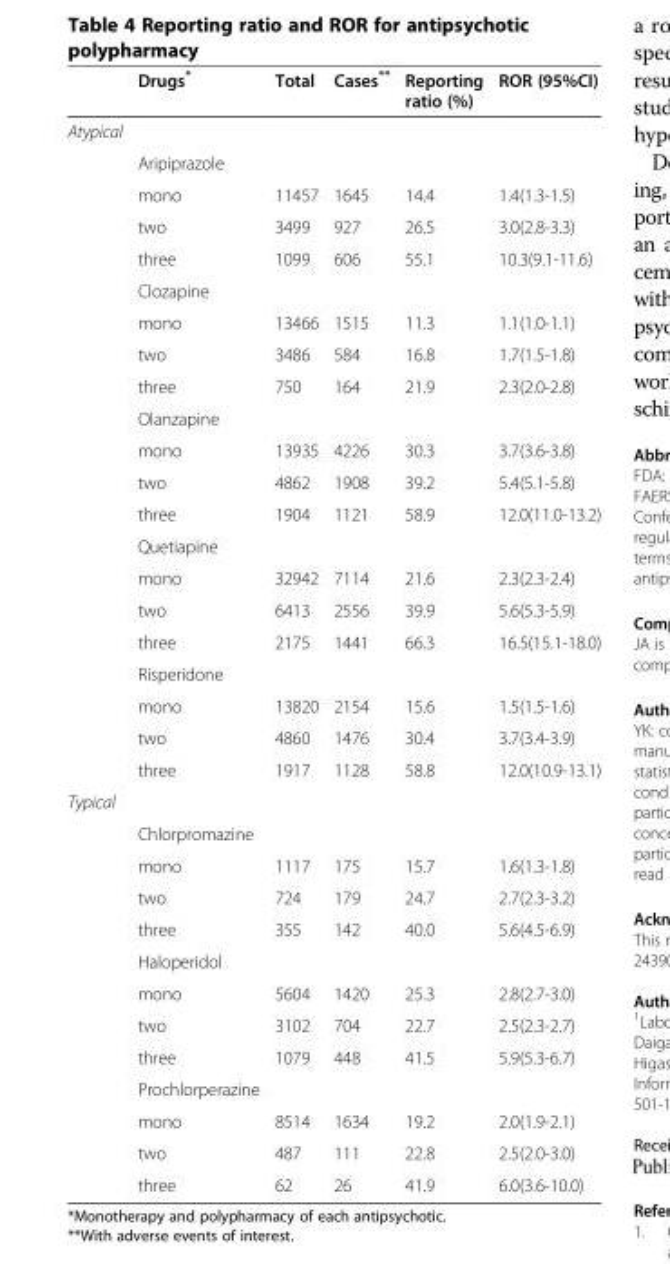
<table><thead><tr><td></td><td>Drugs*</td><td>Total</td><td>Cases**</td><td>Reporting ratio (%)</td><td>ROR (95%CI)</td></tr></thead><tbody><tr><td colspan="6">Atypical</td></tr><tr><td></td><td>Aripiprazole</td><td></td><td></td><td></td><td></td></tr><tr><td></td><td>mono</td><td>11457</td><td>1645</td><td>14.4</td><td>1.4(1.3-1.5)</td></tr><tr><td></td><td>two</td><td>3499</td><td>927</td><td>26.5</td><td>3.0(2.8-3.3)</td></tr><tr><td></td><td>three</td><td>1099</td><td>606</td><td>55.1</td><td>10.3(9.1-11.6)</td></tr><tr><td></td><td>Clozapine</td><td></td><td></td><td></td><td></td></tr><tr><td></td><td>mono</td><td>13466</td><td>1515</td><td>11.3</td><td>1.1(1.0-1.1)</td></tr><tr><td></td><td>two</td><td>3486</td><td>584</td><td>16.8</td><td>1.7(1.5-1.8)</td></tr><tr><td></td><td>three</td><td>750</td><td>164</td><td>21.9</td><td>2.3(2.0-2.8)</td></tr><tr><td></td><td>Olanzapine</td><td></td><td></td><td></td><td></td></tr><tr><td></td><td>mono</td><td>13935</td><td>4226</td><td>30.3</td><td>3.7(3.6-3.8)</td></tr><tr><td></td><td>two</td><td>4862</td><td>1908</td><td>39.2</td><td>5.4(5.1-5.8)</td></tr><tr><td></td><td>three</td><td>1904</td><td>1121</td><td>58.9</td><td>12.0(11.0-13.2)</td></tr><tr><td></td><td>Quetiapine</td><td></td><td></td><td></td><td></td></tr><tr><td></td><td>mono</td><td>32942</td><td>7114</td><td>21.6</td><td>2.3(2.3-2.4)</td></tr><tr><td></td><td>two</td><td>6413</td><td>2556</td><td>39.9</td><td>5.6(5.3-5.9)</td></tr><tr><td></td><td>three</td><td>2175</td><td>1441</td><td>66.3</td><td>16.5(15.1-18.0)</td></tr><tr><td></td><td>Risperidone</td><td></td><td></td><td></td><td></td></tr><tr><td></td><td>mono</td><td>13820</td><td>2154</td><td>15.6</td><td>1.5(1.5-1.6)</td></tr><tr><td></td><td>two</td><td>4860</td><td>1476</td><td>30.4</td><td>3.7(3.4-3.9)</td></tr><tr><td></td><td>three</td><td>1917</td><td>1128</td><td>58.8</td><td>12.0(10.9-13.1)</td></tr><tr><td colspan="6">Typical</td></tr><tr><td></td><td>Chlorpromazine</td><td></td><td></td><td></td><td></td></tr><tr><td></td><td>mono</td><td>1117</td><td>175</td><td>15.7</td><td>1.6(1.3-1.8)</td></tr><tr><td></td><td>two</td><td>724</td><td>179</td><td>24.7</td><td>2.7(2.3-3.2)</td></tr><tr><td></td><td>three</td><td>355</td><td>142</td><td>40.0</td><td>5.6(4.5-6.9)</td></tr><tr><td></td><td>Haloperidol</td><td></td><td></td><td></td><td></td></tr><tr><td></td><td>mono</td><td>5604</td><td>1420</td><td>25.3</td><td>2.8(2.7-3.0)</td></tr><tr><td></td><td>two</td><td>3102</td><td>704</td><td>22.7</td><td>2.5(2.3-2.7)</td></tr><tr><td></td><td>three</td><td>1079</td><td>448</td><td>41.5</td><td>5.9(5.3-6.7)</td></tr><tr><td></td><td>Prochlorperazine</td><td></td><td></td><td></td><td></td></tr><tr><td></td><td>mono</td><td>8514</td><td>1634</td><td>19.2</td><td>2.0(1.9-2.1)</td></tr><tr><td></td><td>two</td><td>487</td><td>111</td><td>22.8</td><td>2.5(2.0-3.0)</td></tr><tr><td></td><td>three</td><td>62</td><td>26</td><td>41.9</td><td>6.0(3.6-10.0)</td></tr></tbody></table>